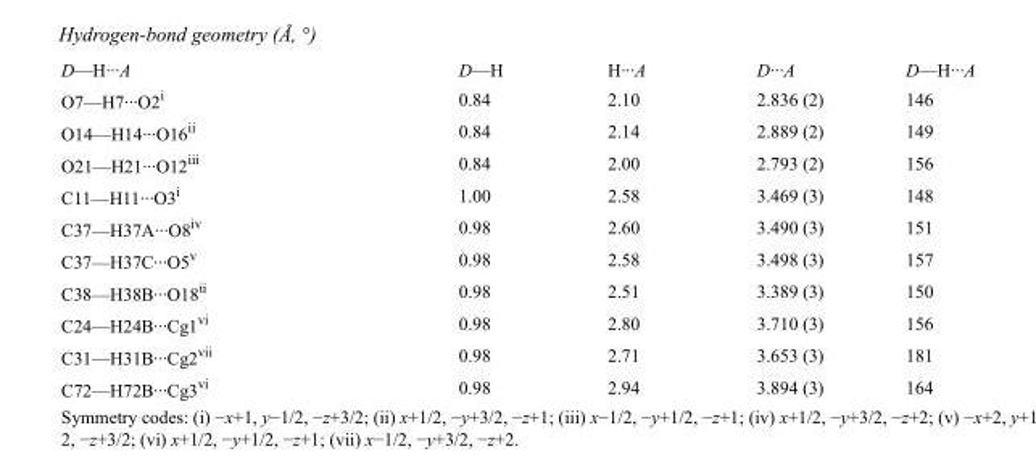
<table><tbody><tr><td>D—H···A</td><td>D—H</td><td>H···A</td><td>D···A</td><td>D—H···A</td></tr><tr><td>O7—H7···O2<sup>i</sup></td><td>0.84</td><td>2.10</td><td>2.836 (2)</td><td>146</td></tr><tr><td>O14—H14···O16<sup>ii</sup></td><td>0.84</td><td>2.14</td><td>2.889 (2)</td><td>149</td></tr><tr><td>O21—H21···O12<sup>iii</sup></td><td>0.84</td><td>2.00</td><td>2.793 (2)</td><td>156</td></tr><tr><td>C11—H11···O3<sup>i</sup></td><td>1.00</td><td>2.58</td><td>3.469 (3)</td><td>148</td></tr><tr><td>C37—H37A···O8<sup>iv</sup></td><td>0.98</td><td>2.60</td><td>3.490 (3)</td><td>151</td></tr><tr><td>C37—H37C···O5<sup>v</sup></td><td>0.98</td><td>2.58</td><td>3.498 (3)</td><td>157</td></tr><tr><td>C38—H38B···O18<sup>ii</sup></td><td>0.98</td><td>2.51</td><td>3.389 (3)</td><td>150</td></tr><tr><td>C24—H24B···Cg1<sup>vi</sup></td><td>0.98</td><td>2.80</td><td>3.710 (3)</td><td>156</td></tr><tr><td>C31—H31B···Cg2<sup>vii</sup></td><td>0.98</td><td>2.71</td><td>3.653 (3)</td><td>181</td></tr><tr><td>C72—H72B···Cg3<sup>vi</sup></td><td>0.98</td><td>2.94</td><td>3.894 (3)</td><td>164</td></tr></tbody></table>